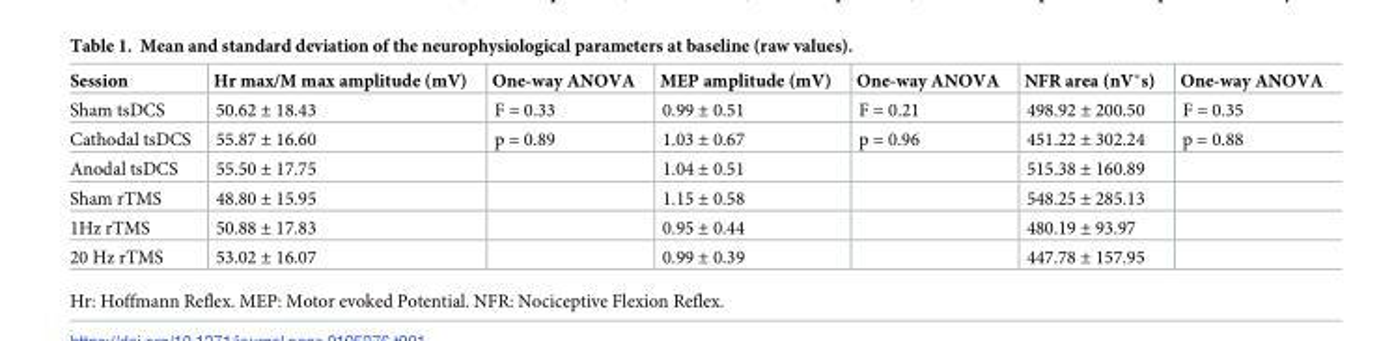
<table><thead><tr><td>Session</td><td>Hr max/M max amplitude (mV)</td><td>One-way ANOVA</td><td>MEP amplitude (mV)</td><td>One-way ANOVA</td><td>NFR area (nV*s)</td><td>One-way ANOVA</td></tr></thead><tbody><tr><td>Sham tsDCS</td><td>50.62 ± 18.43</td><td>F = 0.33</td><td>0.99 ± 0.51</td><td>F = 0.21</td><td>498.92 ± 200.50</td><td>F = 0.35</td></tr><tr><td>Cathodal tsDCS</td><td>55.87 ± 16.60</td><td>p = 0.89</td><td>1.03 ± 0.67</td><td>p = 0.96</td><td>451.22 ± 302.24</td><td>p = 0.88</td></tr><tr><td>Anodal tsDCS</td><td>55.50 ± 17.75</td><td></td><td>1.04 ± 0.51</td><td></td><td>515.38 ± 160.89</td><td></td></tr><tr><td>Sham rTMS</td><td>48.80 ± 15.95</td><td></td><td>1.15 ± 0.58</td><td></td><td>548.25 ± 285.13</td><td></td></tr><tr><td>1Hz rTMS</td><td>50.88 ± 17.83</td><td></td><td>0.95 ± 0.44</td><td></td><td>480.19 ± 93.97</td><td></td></tr><tr><td>20 Hz rTMS</td><td>53.02 ± 16.07</td><td></td><td>0.99 ± 0.39</td><td></td><td>447.78 ± 157.95</td><td></td></tr></tbody></table>